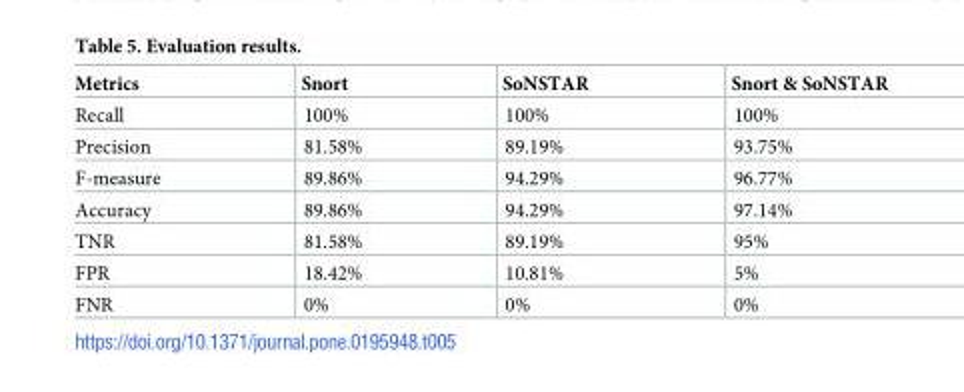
<table><thead><tr><td>Metrics</td><td>Snort</td><td>SoNSTAR</td><td>Snort &amp; SoNSTAR</td></tr></thead><tbody><tr><td>Recall</td><td>100%</td><td>100%</td><td>100%</td></tr><tr><td>Precision</td><td>81.58%</td><td>89.19%</td><td>93.75%</td></tr><tr><td>F-measure</td><td>89.86%</td><td>94.29%</td><td>96.77%</td></tr><tr><td>Accuracy</td><td>89.86%</td><td>94.29%</td><td>97.14%</td></tr><tr><td>TNR</td><td>81.58%</td><td>89.19%</td><td>95%</td></tr><tr><td>FPR</td><td>18.42%</td><td>10.81%</td><td>5%</td></tr><tr><td>FNR</td><td>0%</td><td>0%</td><td>0%</td></tr></tbody></table>